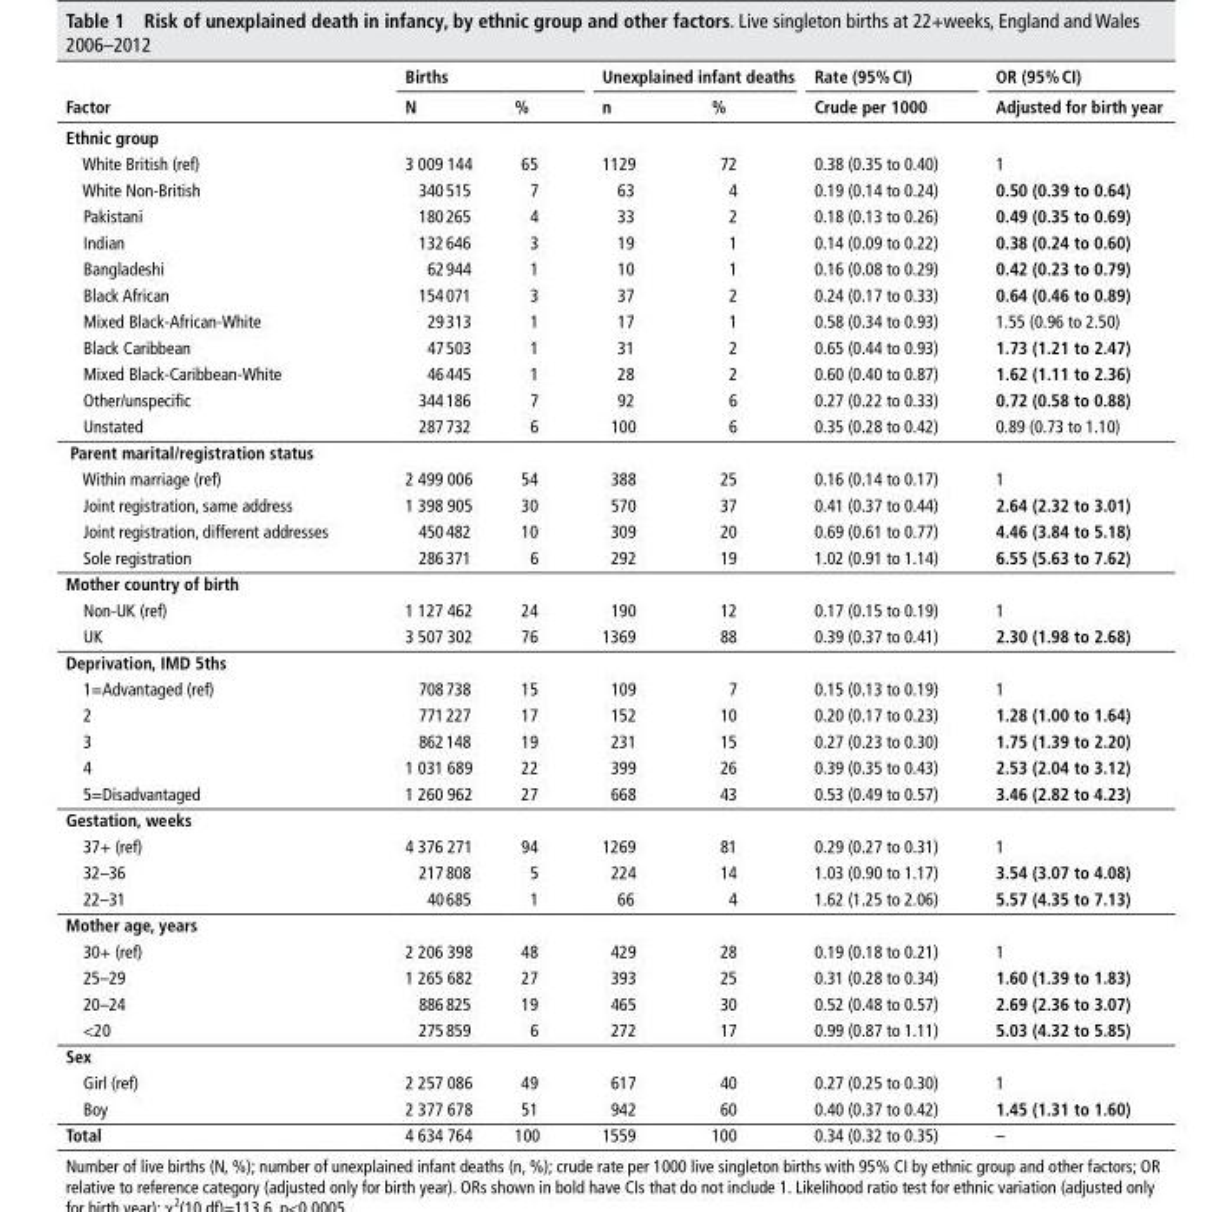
<table><thead><tr><td rowspan="2">Factor</td><td colspan="2">births</td><td colspan="2">unexplained infant deaths</td><td rowspan="2">rate (95% CI) Crude per 1000</td><td rowspan="2">or (95% CI) Adjusted for birth year</td></tr><tr><td>n</td><td>%</td><td>n</td><td>%</td></tr></thead><tbody><tr><td colspan="7">ethnic group</td></tr><tr><td>White British (ref)</td><td>3 009 144</td><td>65</td><td>1129</td><td>72</td><td>0.38 (0.35 to 0.40)</td><td>1</td></tr><tr><td>White Non-British</td><td>340 515</td><td>7</td><td>63</td><td>4</td><td>0.19 (0.14 to 0.24)</td><td>0.50 (0.39 to 0.64)</td></tr><tr><td>Pakistani</td><td>180 265</td><td>4</td><td>33</td><td>2</td><td>0.18 (0.13 to 0.26)</td><td>0.49 (0.35 to 0.69)</td></tr><tr><td>Indian</td><td>132 646</td><td>3</td><td>19</td><td>1</td><td>0.14 (0.09 to 0.22)</td><td>0.38 (0.24 to 0.60)</td></tr><tr><td>Bangladeshi</td><td>62 944</td><td>1</td><td>10</td><td>1</td><td>0.16 (0.08 to 0.29)</td><td>0.42 (0.23 to 0.79)</td></tr><tr><td>Black African</td><td>154 071</td><td>3</td><td>37</td><td>2</td><td>0.24 (0.17 to 0.33)</td><td>0.64 (0.46 to 0.89)</td></tr><tr><td>Mixed Black-African-White</td><td>29 313</td><td>1</td><td>17</td><td>1</td><td>0.58 (0.34 to 0.93)</td><td>1.55 (0.96 to 2.50)</td></tr><tr><td>Black Caribbean</td><td>47 503</td><td>1</td><td>31</td><td>2</td><td>0.65 (0.44 to 0.93)</td><td>1.73 (1.21 to 2.47)</td></tr><tr><td>Mixed Black-Caribbean-White</td><td>46 445</td><td>1</td><td>28</td><td>2</td><td>0.60 (0.40 to 0.87)</td><td>1.62 (1.11 to 2.36)</td></tr><tr><td>Other/unspecific</td><td>344 186</td><td>7</td><td>92</td><td>6</td><td>0.27 (0.22 to 0.33)</td><td>0.72 (0.58 to 0.88)</td></tr><tr><td>Unstated</td><td>287 732</td><td>6</td><td>100</td><td>6</td><td>0.35 (0.28 to 0.42)</td><td>0.89 (0.73 to 1.10)</td></tr><tr><td colspan="7">Parent marital/registration status</td></tr><tr><td>Within marriage (ref)</td><td>2 499 006</td><td>54</td><td>388</td><td>25</td><td>0.16 (0.14 to 0.17)</td><td>1</td></tr><tr><td>Joint registration, same address</td><td>1 398 905</td><td>30</td><td>570</td><td>37</td><td>0.41 (0.37 to 0.44)</td><td>2.64 (2.32 to 3.01)</td></tr><tr><td>Joint registration, different addresses</td><td>450 482</td><td>10</td><td>309</td><td>20</td><td>0.69 (0.61 to 0.77)</td><td>4.46 (3.84 to 5.18)</td></tr><tr><td>Sole registration</td><td>286 371</td><td>6</td><td>292</td><td>19</td><td>1.02 (0.91 to 1.14)</td><td>6.55 (5.63 to 7.62)</td></tr><tr><td colspan="7">Mother country of birth</td></tr><tr><td>Non-UK (ref)</td><td>1 127 462</td><td>24</td><td>190</td><td>12</td><td>0.17 (0.15 to 0.19)</td><td>1</td></tr><tr><td>UK</td><td>3 507 302</td><td>76</td><td>1369</td><td>88</td><td>0.39 (0.37 to 0.41)</td><td>2.30 (1.98 to 2.68)</td></tr><tr><td colspan="7">deprivation, IMd 5ths</td></tr><tr><td>1=Advantaged (ref)</td><td>708 738</td><td>15</td><td>109</td><td>7</td><td>0.15 (0.13 to 0.19)</td><td>1</td></tr><tr><td>2</td><td>771 227</td><td>17</td><td>152</td><td>10</td><td>0.20 (0.17 to 0.23)</td><td>1.28 (1.00 to 1.64)</td></tr><tr><td>3</td><td>862 148</td><td>19</td><td>231</td><td>15</td><td>0.27 (0.23 to 0.30)</td><td>1.75 (1.39 to 2.20)</td></tr><tr><td>4</td><td>1 031 689</td><td>22</td><td>399</td><td>26</td><td>0.39 (0.35 to 0.43)</td><td>2.53 (2.04 to 3.12)</td></tr><tr><td>5=Disadvantaged</td><td>1 260 962</td><td>27</td><td>668</td><td>43</td><td>0.53 (0.49 to 0.57)</td><td>3.46 (2.82 to 4.23)</td></tr><tr><td colspan="7">Gestation, weeks</td></tr><tr><td>37+ (ref)</td><td>4 376 271</td><td>94</td><td>1269</td><td>81</td><td>0.29 (0.27 to 0.31)</td><td>1</td></tr><tr><td>32–36</td><td>217 808</td><td>5</td><td>224</td><td>14</td><td>1.03 (0.90 to 1.17)</td><td>3.54 (3.07 to 4.08)</td></tr><tr><td>22–31</td><td>40 685</td><td>1</td><td>66</td><td>4</td><td>1.62 (1.25 to 2.06)</td><td>5.57 (4.35 to 7.13)</td></tr><tr><td colspan="7">Mother age, years</td></tr><tr><td>30+ (ref)</td><td>2 206 398</td><td>48</td><td>429</td><td>28</td><td>0.19 (0.18 to 0.21)</td><td>1</td></tr><tr><td>25–29</td><td>1 265 682</td><td>27</td><td>393</td><td>25</td><td>0.31 (0.28 to 0.34)</td><td>1.60 (1.39 to 1.83)</td></tr><tr><td>20–24</td><td>886 825</td><td>19</td><td>465</td><td>30</td><td>0.52 (0.48 to 0.57)</td><td>2.69 (2.36 to 3.07)</td></tr><tr><td>&lt;20</td><td>275 859</td><td>6</td><td>272</td><td>17</td><td>0.99 (0.87 to 1.11)</td><td>5.03 (4.32 to 5.85)</td></tr><tr><td colspan="7">sex</td></tr><tr><td>Girl (ref)</td><td>2 257 086</td><td>49</td><td>617</td><td>40</td><td>0.27 (0.25 to 0.30)</td><td>1</td></tr><tr><td>Boy</td><td>2 377 678</td><td>51</td><td>942</td><td>60</td><td>0.40 (0.37 to 0.42)</td><td>1.45 (1.31 to 1.60)</td></tr><tr><td>Total</td><td>4 634 764</td><td>100</td><td>1559</td><td>100</td><td>0.34 (0.32 to 0.35)</td><td>–</td></tr></tbody></table>